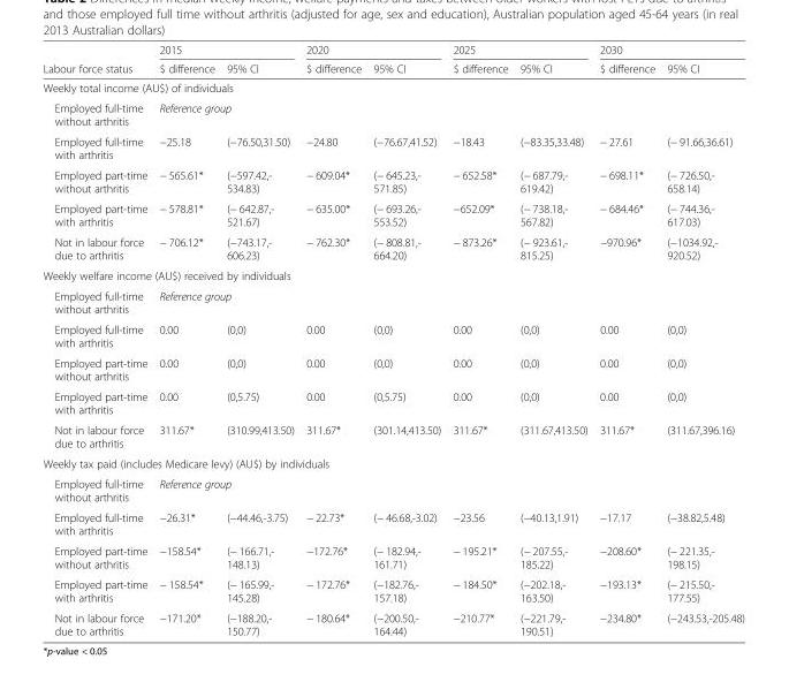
<table><thead><tr><td rowspan="2">Labour force status</td><td colspan="2">2015</td><td colspan="2">2020</td><td colspan="2">2025</td><td colspan="2">2030</td></tr><tr><td>$ difference</td><td>95% CI</td><td>$ difference</td><td>95% CI</td><td>$ difference</td><td>95% CI</td><td>$ difference</td><td>95% CI</td></tr></thead><tbody><tr><td colspan="9">Weekly total income (AU$) of individuals</td></tr><tr><td>Employed full-time without arthritis</td><td colspan="8">Reference group</td></tr><tr><td>Employed full-time with arthritis</td><td>−25.18</td><td>(−76.50,31.50)</td><td>−24.80</td><td>(−76.67,41.52)</td><td>−18.43</td><td>(−83.35,33.48)</td><td>− 27.61</td><td>(− 91.66,36.61)</td></tr><tr><td>Employed part-time without arthritis</td><td>− 565.61*</td><td>(−597.42,- 534.83)</td><td>− 609.04*</td><td>(− 645.23,- 571.85)</td><td>− 652.58*</td><td>(− 687.79,- 619.42)</td><td>− 698.11*</td><td>(− 726.50,- 658.14)</td></tr><tr><td>Employed part-time with arthritis</td><td>− 578.81*</td><td>(− 642.87,- 521.67)</td><td>− 635.00*</td><td>(− 693.26,- 553.52)</td><td>−652.09*</td><td>(− 738.18,- 567.82)</td><td>− 684.46*</td><td>(− 744.36,- 617.03)</td></tr><tr><td>Not in labour force due to arthritis</td><td>− 706.12*</td><td>(−743.17,- 606.23)</td><td>− 762.30*</td><td>(− 808.81,- 664.20)</td><td>− 873.26*</td><td>(− 923.61,- 815.25)</td><td>−970.96*</td><td>(−1034.92,- 920.52)</td></tr><tr><td colspan="9">Weekly welfare income (AU$) received by individuals</td></tr><tr><td>Employed full-time without arthritis</td><td colspan="8">Reference group</td></tr><tr><td>Employed full-time with arthritis</td><td>0.00</td><td>(0,0)</td><td>0.00</td><td>(0,0)</td><td>0.00</td><td>(0,0)</td><td>0.00</td><td>(0,0)</td></tr><tr><td>Employed part-time without arthritis</td><td>0.00</td><td>(0,0)</td><td>0.00</td><td>(0,0)</td><td>0.00</td><td>(0,0)</td><td>0.00</td><td>(0,0)</td></tr><tr><td>Employed part-time with arthritis</td><td>0.00</td><td>(0,5.75)</td><td>0.00</td><td>(0,5.75)</td><td>0.00</td><td>(0,0)</td><td>0.00</td><td>(0,0)</td></tr><tr><td>Not in labour force due to arthritis</td><td>311.67*</td><td>(310.99,413.50)</td><td>311.67*</td><td>(301.14,413.50)</td><td>311.67*</td><td>(311.67,413.50)</td><td>311.67*</td><td>(311.67,396.16)</td></tr><tr><td colspan="9">Weekly tax paid (includes Medicare levy) (AU$) by individuals</td></tr><tr><td>Employed full-time without arthritis</td><td colspan="8">Reference group</td></tr><tr><td>Employed full-time with arthritis</td><td>−26.31*</td><td>(−44.46,-3.75)</td><td>− 22.73*</td><td>(− 46.68,-3.02)</td><td>−23.56</td><td>(−40.13,1.91)</td><td>−17.17</td><td>(−38.82,5.48)</td></tr><tr><td>Employed part-time without arthritis</td><td>−158.54*</td><td>(− 166.71,- 148.13)</td><td>−172.76*</td><td>(− 182.94,- 161.71)</td><td>− 195.21*</td><td>(− 207.55,- 185.22)</td><td>−208.60*</td><td>(− 221.35,- 198.15)</td></tr><tr><td>Employed part-time with arthritis</td><td>− 158.54*</td><td>(− 165.99,- 145.28)</td><td>− 172.76*</td><td>(−182.76,- 157.18)</td><td>− 184.50*</td><td>(−202.18,- 163.50)</td><td>−193.13*</td><td>(− 215.50,- 177.55)</td></tr><tr><td>Not in labour force due to arthritis</td><td>−171.20*</td><td>(−188.20,- 150.77)</td><td>− 180.64*</td><td>(−200.50,- 164.44)</td><td>−210.77*</td><td>(−221.79,- 190.51)</td><td>−234.80*</td><td>(−243.53,-205.48)</td></tr></tbody></table>